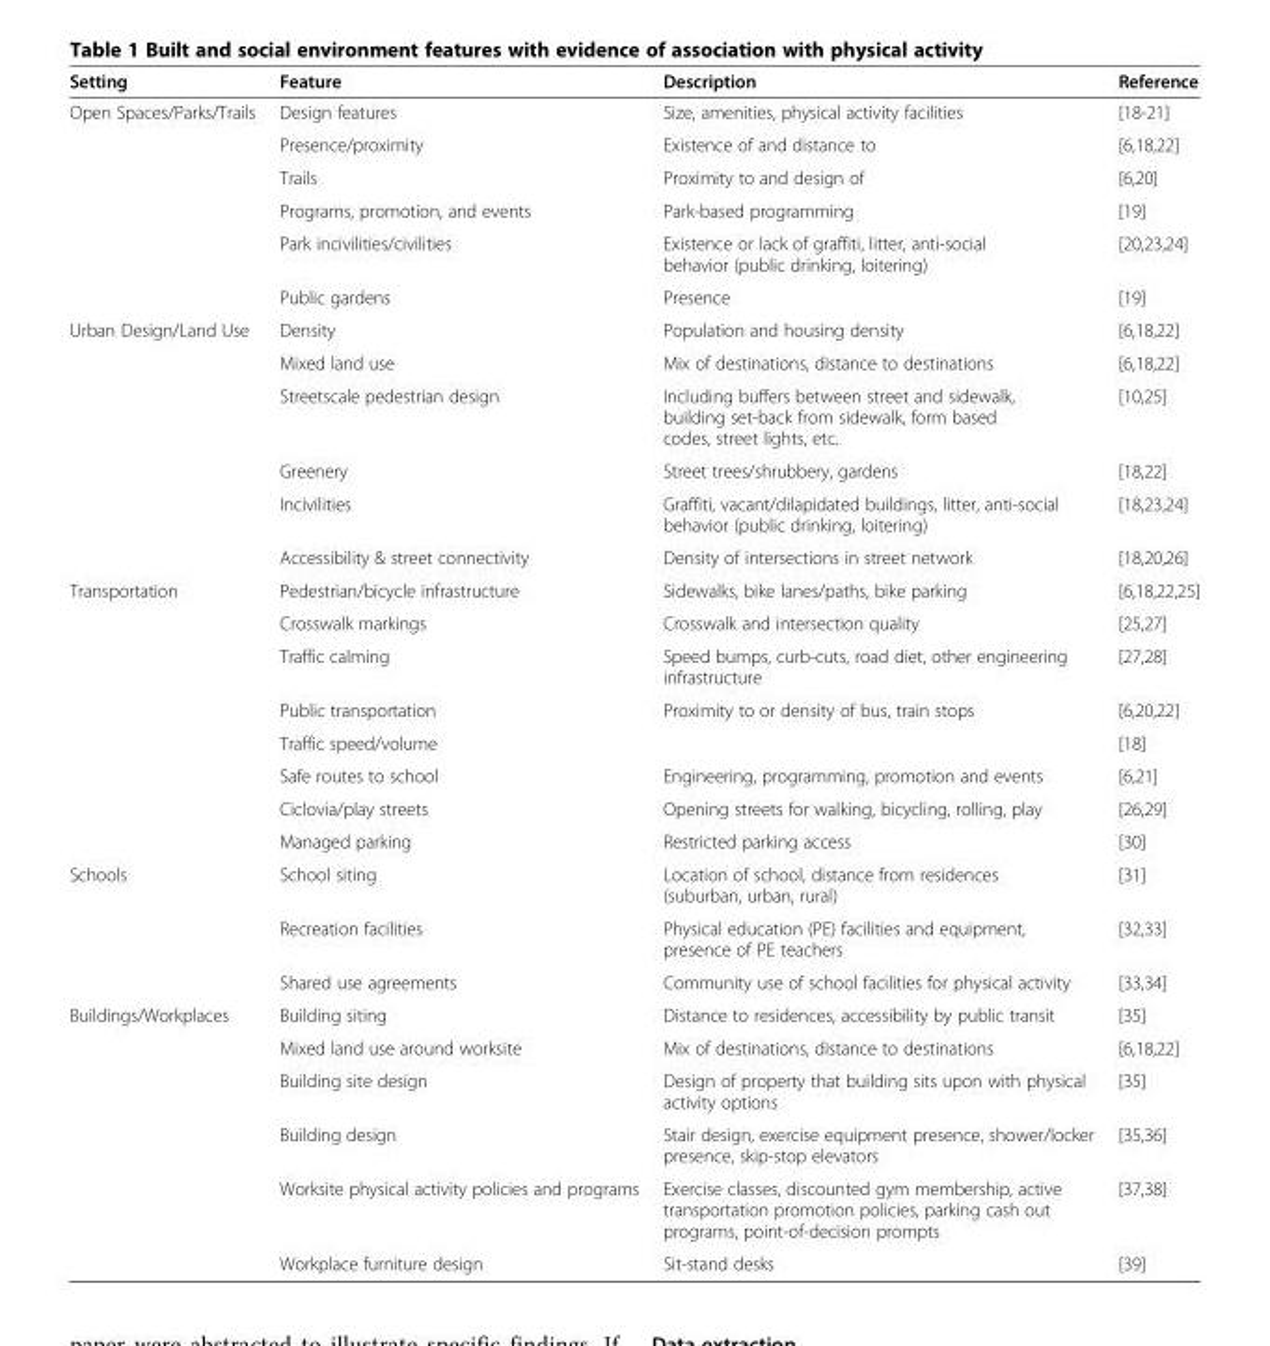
<table><thead><tr><td>Setting</td><td>Feature</td><td>Description</td><td>Reference</td></tr></thead><tbody><tr><td rowspan="6">Open Spaces/Parks/Trails</td><td>Design features</td><td>Size, amenities, physical activity facilities</td><td>[18-21]</td></tr><tr><td>Presence/proximity</td><td>Existence of and distance to</td><td>[6,18,22]</td></tr><tr><td>Trails</td><td>Proximity to and design of</td><td>[6,20]</td></tr><tr><td>Programs, promotion, and events</td><td>Park-based programming</td><td>[19]</td></tr><tr><td>Park incivilities/civilities</td><td>Existence or lack of graffiti, litter, anti-social behavior (public drinking, loitering)</td><td>[20,23,24]</td></tr><tr><td>Public gardens</td><td>Presence</td><td>[19]</td></tr><tr><td rowspan="6">Urban Design/Land Use</td><td>Density</td><td>Population and housing density</td><td>[6,18,22]</td></tr><tr><td>Mixed land use</td><td>Mix of destinations, distance to destinations</td><td>[6,18,22]</td></tr><tr><td>Streetscale pedestrian design</td><td>Including buffers between street and sidewalk, building set-back from sidewalk, form based codes, street lights, etc.</td><td>[10,25]</td></tr><tr><td>Greenery</td><td>Street trees/shrubbery, gardens</td><td>[18,22]</td></tr><tr><td>Incivilities</td><td>Graffiti, vacant/dilapidated buildings, litter, anti-social behavior (public drinking, loitering)</td><td>[18,23,24]</td></tr><tr><td>Accessibility &amp; street connectivity</td><td>Density of intersections in street network</td><td>[18,20,26]</td></tr><tr><td rowspan="8">Transportation</td><td>Pedestrian/bicycle infrastructure</td><td>Sidewalks, bike lanes/paths, bike parking</td><td>[6,18,22,25]</td></tr><tr><td>Crosswalk markings</td><td>Crosswalk and intersection quality</td><td>[25,27]</td></tr><tr><td>Traffic calming</td><td>Speed bumps, curb-cuts, road diet, other engineering infrastructure</td><td>[27,28]</td></tr><tr><td>Public transportation</td><td>Proximity to or density of bus, train stops</td><td>[6,20,22]</td></tr><tr><td>Traffic speed/volume</td><td></td><td>[18]</td></tr><tr><td>Safe routes to school</td><td>Engineering, programming, promotion and events</td><td>[6,21]</td></tr><tr><td>Ciclovia/play streets</td><td>Opening streets for walking, bicycling, rolling, play</td><td>[26,29]</td></tr><tr><td>Managed parking</td><td>Restricted parking access</td><td>[30]</td></tr><tr><td rowspan="3">Schools</td><td>School siting</td><td>Location of school, distance from residences (suburban, urban, rural)</td><td>[31]</td></tr><tr><td>Recreation facilities</td><td>Physical education (PE) facilities and equipment, presence of PE teachers</td><td>[32,33]</td></tr><tr><td>Shared use agreements</td><td>Community use of school facilities for physical activity</td><td>[33,34]</td></tr><tr><td rowspan="6">Buildings/Workplaces</td><td>Building siting</td><td>Distance to residences, accessibility by public transit</td><td>[35]</td></tr><tr><td>Mixed land use around worksite</td><td>Mix of destinations, distance to destinations</td><td>[6,18,22]</td></tr><tr><td>Building site design</td><td>Design of property that building sits upon with physical activity options</td><td>[35]</td></tr><tr><td>Building design</td><td>Stair design, exercise equipment presence, shower/locker presence, skip-stop elevators</td><td>[35,36]</td></tr><tr><td>Worksite physical activity policies and programs</td><td>Exercise classes, discounted gym membership, active transportation promotion policies, parking cash out programs, point-of-decision prompts</td><td>[37,38]</td></tr><tr><td>Workplace furniture design</td><td>Sit-stand desks</td><td>[39]</td></tr></tbody></table>